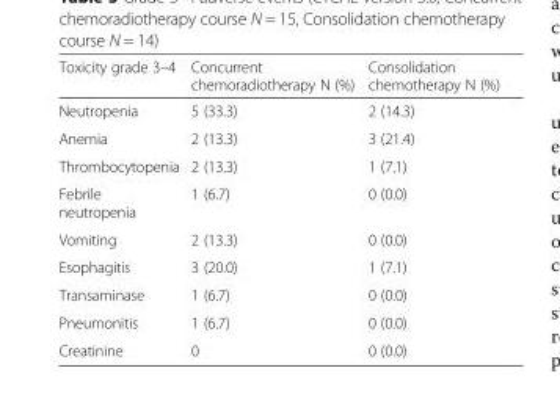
<table><thead><tr><td>Toxicity grade 3–4</td><td>Concurrent chemoradiotherapy N (%)</td><td>Consolidation chemotherapy N (%)</td></tr></thead><tbody><tr><td>Neutropenia</td><td>5 (33.3)</td><td>2 (14.3)</td></tr><tr><td>Anemia</td><td>2 (13.3)</td><td>3 (21.4)</td></tr><tr><td>Thrombocytopenia</td><td>2 (13.3)</td><td>1 (7.1)</td></tr><tr><td>Febrile neutropenia</td><td>1 (6.7)</td><td>0 (0.0)</td></tr><tr><td>Vomiting</td><td>2 (13.3)</td><td>0 (0.0)</td></tr><tr><td>Esophagitis</td><td>3 (20.0)</td><td>1 (7.1)</td></tr><tr><td>Transaminase</td><td>1 (6.7)</td><td>0 (0.0)</td></tr><tr><td>Pneumonitis</td><td>1 (6.7)</td><td>0 (0.0)</td></tr><tr><td>Creatinine</td><td>0</td><td>0 (0.0)</td></tr></tbody></table>